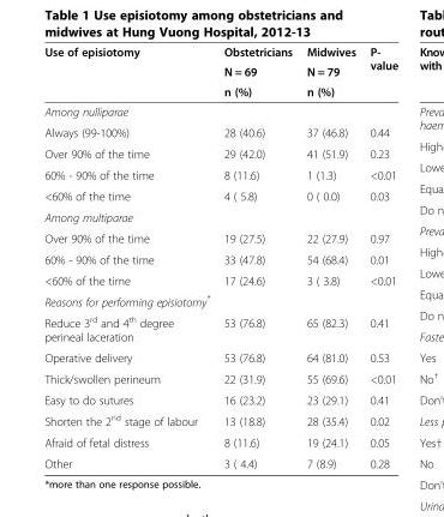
<table><thead><tr><td rowspan="3">Use of episiotomy</td><td rowspan="3">Obstetricians N = 69 n (%)</td><td rowspan="3">Midwives N = 79 n (%)</td><td rowspan="3">P- value</td></tr><tr></tr><tr></tr></thead><tbody><tr><td colspan="4">Among nulliparae</td></tr><tr><td>Always (99-100%)</td><td>28 (40.6)</td><td>37 (46.8)</td><td>0.44</td></tr><tr><td>Over 90% of the time</td><td>29 (42.0)</td><td>41 (51.9)</td><td>0.23</td></tr><tr><td>60% - 90% of the time</td><td>8 (11.6)</td><td>1 (1.3)</td><td>&lt;0.01</td></tr><tr><td>&lt;60% of the time</td><td>4 ( 5.8)</td><td>0 ( 0.0)</td><td>0.03</td></tr><tr><td colspan="4">Among multiparae</td></tr><tr><td>Over 90% of the time</td><td>19 (27.5)</td><td>22 (27.9)</td><td>0.97</td></tr><tr><td>60% - 90% of the time</td><td>33 (47.8)</td><td>54 (68.4)</td><td>0.01</td></tr><tr><td>&lt;60% of the time</td><td>17 (24.6)</td><td>3 ( 3.8)</td><td>&lt;0.01</td></tr><tr><td colspan="4">Reasons for performing episiotomy*</td></tr><tr><td>Reduce 3<sup>rd</sup> and 4<sup>th</sup> degree perineal laceration</td><td>53 (76.8)</td><td>65 (82.3)</td><td>0.41</td></tr><tr><td>Operative delivery</td><td>53 (76.8)</td><td>64 (81.0)</td><td>0.53</td></tr><tr><td>Thick/swollen perineum</td><td>22 (31.9)</td><td>55 (69.6)</td><td>&lt;0.01</td></tr><tr><td>Easy to do sutures</td><td>16 (23.2)</td><td>23 (29.1)</td><td>0.41</td></tr><tr><td>Shorten the 2<sup>nd</sup> stage of labour</td><td>13 (18.8)</td><td>28 (35.4)</td><td>0.02</td></tr><tr><td>Afraid of fetal distress</td><td>8 (11.6)</td><td>19 (24.1)</td><td>0.05</td></tr><tr><td>Other</td><td>3 ( 4.4)</td><td>7 (8.9)</td><td>0.28</td></tr></tbody></table>